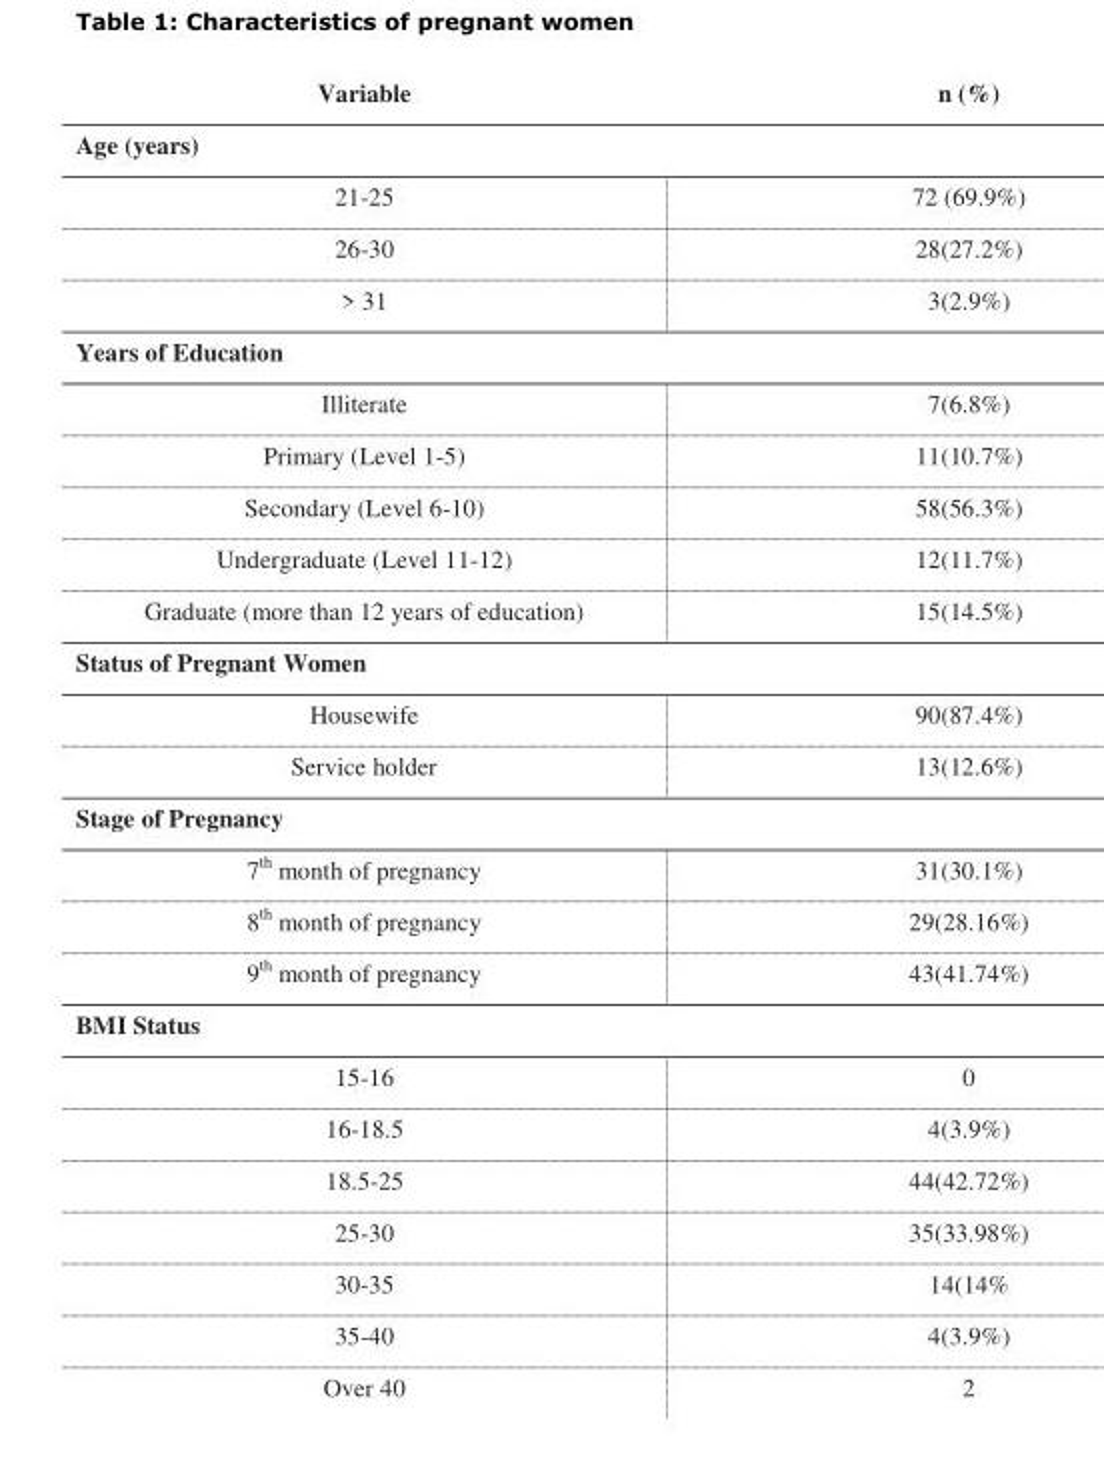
<table><thead><tr><td>Variable</td><td>n (%)</td></tr></thead><tbody><tr><td colspan="2">Age (years)</td></tr><tr><td>21-25</td><td>72 (69.9%)</td></tr><tr><td>26-30</td><td>28(27.2%)</td></tr><tr><td>&gt; 31</td><td>3(2.9%)</td></tr><tr><td colspan="2">Years of Education</td></tr><tr><td>Illiterate</td><td>7(6.8%)</td></tr><tr><td>Primary (Level 1-5)</td><td>11(10.7%)</td></tr><tr><td>Secondary (Level 6-10)</td><td>58(56.3%)</td></tr><tr><td>Undergraduate (Level 11-12)</td><td>12(11.7%)</td></tr><tr><td>Graduate (more than 12 years of education)</td><td>15(14.5%)</td></tr><tr><td colspan="2">Status of Pregnant Women</td></tr><tr><td>Housewife</td><td>90(87.4%)</td></tr><tr><td>Service holder</td><td>13(12.6%)</td></tr><tr><td colspan="2">Stage of Pregnancy</td></tr><tr><td>7th month of pregnancy</td><td>31(30.1%)</td></tr><tr><td>8<sup>th</sup> month of pregnancy</td><td>29(28.16%)</td></tr><tr><td>9<sup>th</sup> month of pregnancy</td><td>43(41.74%)</td></tr><tr><td colspan="2">BMI Status</td></tr><tr><td>15-16</td><td>0</td></tr><tr><td>16-18.5</td><td>4(3.9%)</td></tr><tr><td>18.5-25</td><td>44(42.72%)</td></tr><tr><td>25-30</td><td>35(33.98%)</td></tr><tr><td>30-35</td><td>14(14%</td></tr><tr><td>35-40</td><td>4(3.9%)</td></tr><tr><td>Over 40</td><td>2</td></tr></tbody></table>